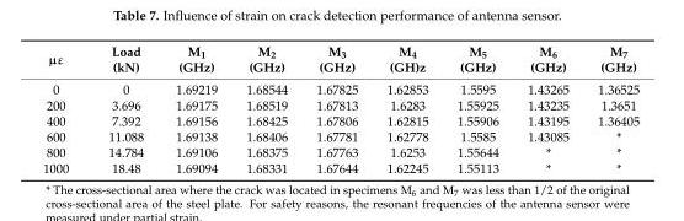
<table><thead><tr><td>µε</td><td>Load (kN)</td><td>M<sub>1</sub> (GHz)</td><td>M<sub>2</sub> (GHz)</td><td>M<sub>3</sub> (GHz)</td><td>M<sub>4</sub> (GH)z</td><td>M<sub>5</sub> (GHz)</td><td>M<sub>6</sub> (GHz)</td><td>M<sub>7</sub> (GHz)</td></tr></thead><tbody><tr><td>0</td><td>0</td><td>1.69219</td><td>1.68544</td><td>1.67825</td><td>1.62853</td><td>1.5595</td><td>1.43265</td><td>1.36525</td></tr><tr><td>200</td><td>3.696</td><td>1.69175</td><td>1.68519</td><td>1.67813</td><td>1.6283</td><td>1.55925</td><td>1.43235</td><td>1.3651</td></tr><tr><td>400</td><td>7.392</td><td>1.69156</td><td>1.68425</td><td>1.67806</td><td>1.62815</td><td>1.55906</td><td>1.43195</td><td>1.36405</td></tr><tr><td>600</td><td>11.088</td><td>1.69138</td><td>1.68406</td><td>1.67781</td><td>1.62778</td><td>1.5585</td><td>1.43085</td><td>*</td></tr><tr><td>800</td><td>14.784</td><td>1.69106</td><td>1.68375</td><td>1.67763</td><td>1.6253</td><td>1.55644</td><td>*</td><td>*</td></tr><tr><td>1000</td><td>18.48</td><td>1.69094</td><td>1.68331</td><td>1.67644</td><td>1.62245</td><td>1.55113</td><td>*</td><td>*</td></tr></tbody></table>